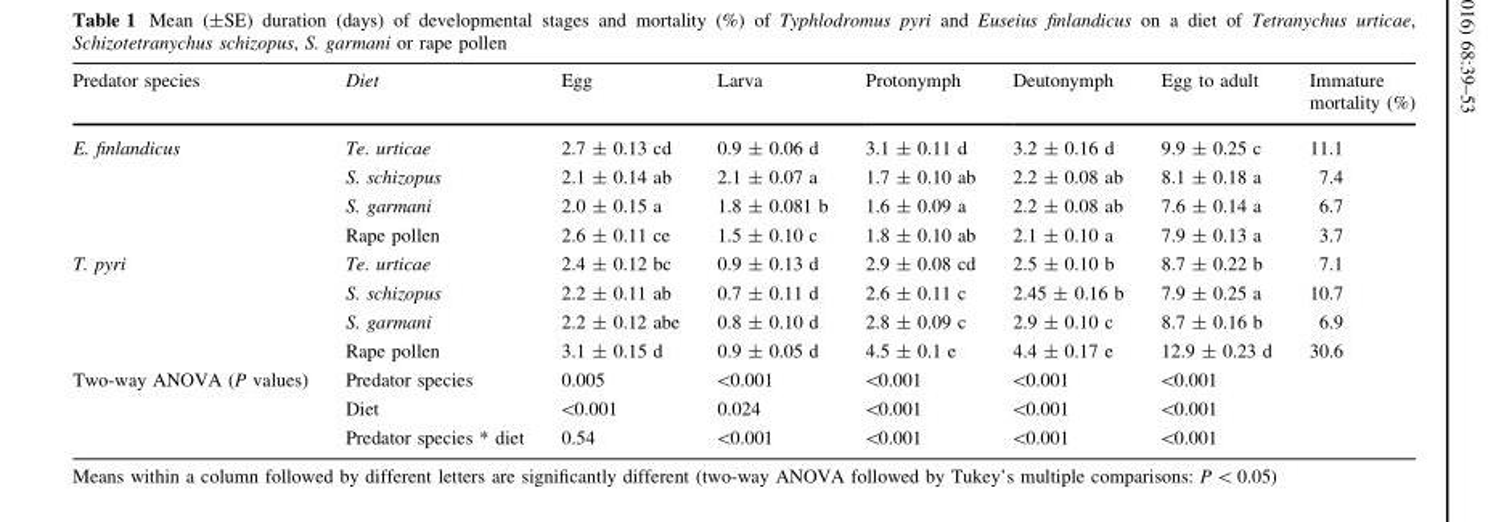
<table><thead><tr><td>Predator species</td><td>Diet</td><td>Egg</td><td>Larva</td><td>Protonymph</td><td>Deutonymph</td><td>Egg to adult</td><td>Immature mortality (%)</td></tr></thead><tbody><tr><td rowspan="4">E. finlandicus</td><td>Te. urticae</td><td>2.7 ± 0.13 cd</td><td>0.9 ± 0.06 d</td><td>3.1 ± 0.11 d</td><td>3.2 ± 0.16 d</td><td>9.9 ± 0.25 c</td><td>11.1</td></tr><tr><td>S. schizopus</td><td>2.1 ± 0.14 ab</td><td>2.1 ± 0.07 a</td><td>1.7 ± 0.10 ab</td><td>2.2 ± 0.08 ab</td><td>8.1 ± 0.18 a</td><td>7.4</td></tr><tr><td>S. garmani</td><td>2.0 ± 0.15 a</td><td>1.8 ± 0.081 b</td><td>1.6 ± 0.09 a</td><td>2.2 ± 0.08 ab</td><td>7.6 ± 0.14 a</td><td>6.7</td></tr><tr><td>Rape pollen</td><td>2.6 ± 0.11 ce</td><td>1.5 ± 0.10 c</td><td>1.8 ± 0.10 ab</td><td>2.1 ± 0.10 a</td><td>7.9 ± 0.13 a</td><td>3.7</td></tr><tr><td rowspan="4">T. pyri</td><td>Te. urticae</td><td>2.4 ± 0.12 bc</td><td>0.9 ± 0.13 d</td><td>2.9 ± 0.08 cd</td><td>2.5 ± 0.10 b</td><td>8.7 ± 0.22 b</td><td>7.1</td></tr><tr><td>S. schizopus</td><td>2.2 ± 0.11 ab</td><td>0.7 ± 0.11 d</td><td>2.6 ± 0.11 c</td><td>2.45 ± 0.16 b</td><td>7.9 ± 0.25 a</td><td>10.7</td></tr><tr><td>S. garmani</td><td>2.2 ± 0.12 abe</td><td>0.8 ± 0.10 d</td><td>2.8 ± 0.09 c</td><td>2.9 ± 0.10 c</td><td>8.7 ± 0.16 b</td><td>6.9</td></tr><tr><td>Rape pollen</td><td>3.1 ± 0.15 d</td><td>0.9 ± 0.05 d</td><td>4.5 ± 0.1 e</td><td>4.4 ± 0.17 e</td><td>12.9 ± 0.23 d</td><td>30.6</td></tr><tr><td rowspan="3">Two-way ANOVA (P values)</td><td>Predator species</td><td>0.005</td><td>&lt;0.001</td><td>&lt;0.001</td><td>&lt;0.001</td><td>&lt;0.001</td><td></td></tr><tr><td>Diet</td><td>&lt;0.001</td><td>0.024</td><td>&lt;0.001</td><td>&lt;0.001</td><td>&lt;0.001</td><td></td></tr><tr><td>Predator species * diet</td><td>0.54</td><td>&lt;0.001</td><td>&lt;0.001</td><td>&lt;0.001</td><td>&lt;0.001</td><td></td></tr></tbody></table>